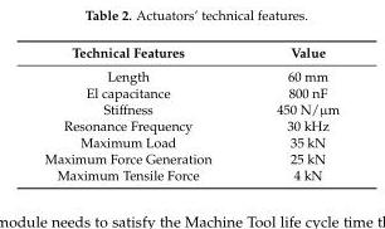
<table><thead><tr><td>Technical Features</td><td>Value</td></tr></thead><tbody><tr><td>Length</td><td>60 mm</td></tr><tr><td>El capacitance</td><td>800 nF</td></tr><tr><td>Stiffness</td><td>450 N/µm</td></tr><tr><td>Resonance Frequency</td><td>30 kHz</td></tr><tr><td>Maximum Load</td><td>35 kN</td></tr><tr><td>Maximum Force Generation</td><td>25 kN</td></tr><tr><td>Maximum Tensile Force</td><td>4 kN</td></tr></tbody></table>